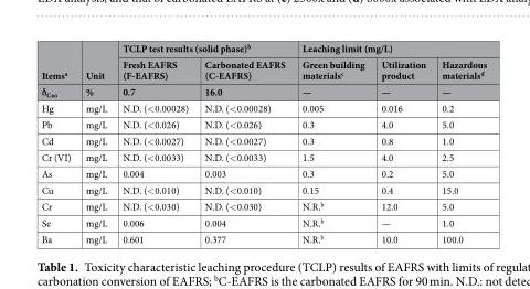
<table><thead><tr><td rowspan="3">Items<sup>a</sup> δ<sub>Cao</sub></td><td rowspan="3">Unit %</td><td colspan="2">TCLP test results (solid phase)<sup>b</sup></td><td colspan="3">Leaching limit (mg/L)</td></tr><tr><td rowspan="2">Fresh EAFRS (F-EAFRS) 0.7</td><td rowspan="2">Carbonated EAFRS (C-EAFRS) 16.0</td><td rowspan="2">Green building materials<sup>c</sup> —</td><td rowspan="2">Utilization product —</td><td rowspan="2">Hazardous materials<sup>d</sup> —</td></tr><tr></tr></thead><tbody><tr><td>Hg</td><td>mg/L</td><td>N.D. (&lt;0.00028)</td><td>N.D. (&lt;0.00028)</td><td>0.005</td><td>0.016</td><td>0.2</td></tr><tr><td>Pb</td><td>mg/L</td><td>N.D. (&lt;0.026)</td><td>N.D. (&lt;0.026)</td><td>0.3</td><td>4.0</td><td>5.0</td></tr><tr><td>Cd</td><td>mg/L</td><td>N.D. (&lt;0.0027)</td><td>N.D. (&lt;0.0027)</td><td>0.3</td><td>0.8</td><td>1.0</td></tr><tr><td>Cr (VI)</td><td>mg/L</td><td>N.D. (&lt;0.0033)</td><td>N.D. (&lt;0.0033)</td><td>1.5</td><td>4.0</td><td>2.5</td></tr><tr><td>As</td><td>mg/L</td><td>0.004</td><td>0.003</td><td>0.3</td><td>0.2</td><td>5.0</td></tr><tr><td>Cu</td><td>mg/L</td><td>N.D. (&lt;0.010)</td><td>N.D. (&lt;0.010)</td><td>0.15</td><td>0.4</td><td>15.0</td></tr><tr><td>Cr</td><td>mg/L</td><td>N.D. (&lt;0.030)</td><td>N.D. (&lt;0.030)</td><td>N.R.<sup>b</sup></td><td>12.0</td><td>5.0</td></tr><tr><td>Se</td><td>mg/L</td><td>0.006</td><td>0.004</td><td>N.R.<sup>b</sup></td><td>—</td><td>1.0</td></tr><tr><td>Ba</td><td>mg/L</td><td>0.601</td><td>0.377</td><td>N.R.<sup>b</sup></td><td>10.0</td><td>100.0</td></tr></tbody></table>